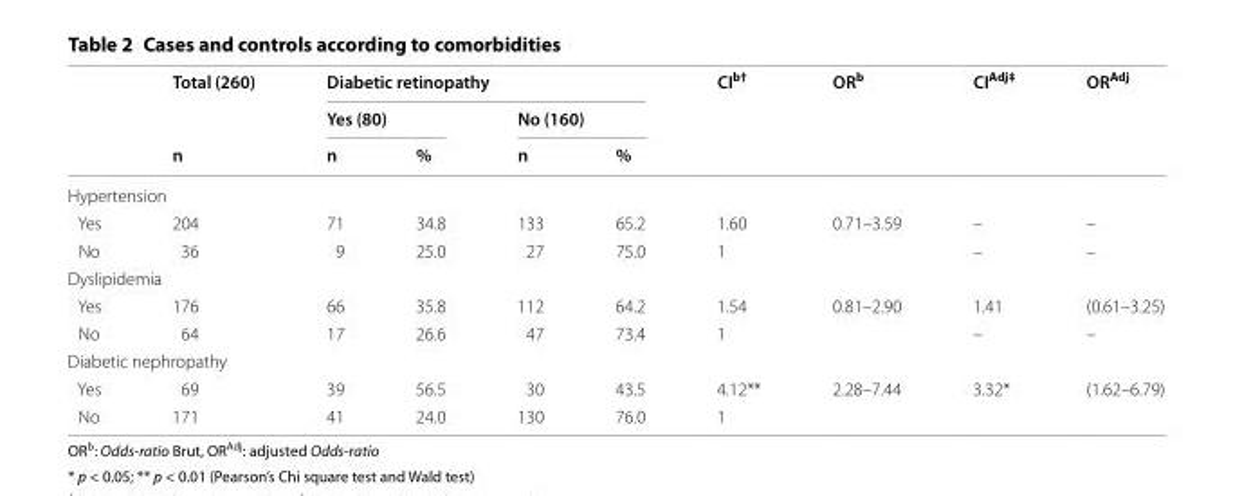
<table><thead><tr><td rowspan="3"></td><td rowspan="3">Total (260) n</td><td colspan="4">Diabetic retinopathy</td><td rowspan="3">CI<sup>b†</sup></td><td rowspan="3">OR<sup>b</sup></td><td rowspan="3">CI<sup>Adj‡</sup></td><td rowspan="3">OR<sup>Adj</sup></td></tr><tr><td colspan="2">Yes (80)</td><td colspan="2">No (160)</td></tr><tr><td>n</td><td>%</td><td>n</td><td>%</td></tr></thead><tbody><tr><td colspan="10">Hypertension</td></tr><tr><td>Yes</td><td>204</td><td>71</td><td>34.8</td><td>133</td><td>65.2</td><td>1.60</td><td>0.71–3.59</td><td>–</td><td>–</td></tr><tr><td>No</td><td>36</td><td>9</td><td>25.0</td><td>27</td><td>75.0</td><td>1</td><td></td><td>–</td><td>–</td></tr><tr><td colspan="10">Dyslipidemia</td></tr><tr><td>Yes</td><td>176</td><td>66</td><td>35.8</td><td>112</td><td>64.2</td><td>1.54</td><td>0.81–2.90</td><td>1.41</td><td>(0.61–3.25)</td></tr><tr><td>No</td><td>64</td><td>17</td><td>26.6</td><td>47</td><td>73.4</td><td>1</td><td></td><td>–</td><td>–</td></tr><tr><td colspan="10">Diabetic nephropathy</td></tr><tr><td>Yes</td><td>69</td><td>39</td><td>56.5</td><td>30</td><td>43.5</td><td>4.12**</td><td>2.28–7.44</td><td>3.32*</td><td>(1.62–6.79)</td></tr><tr><td>No</td><td>171</td><td>41</td><td>24.0</td><td>130</td><td>76.0</td><td>1</td><td></td><td></td><td></td></tr></tbody></table>